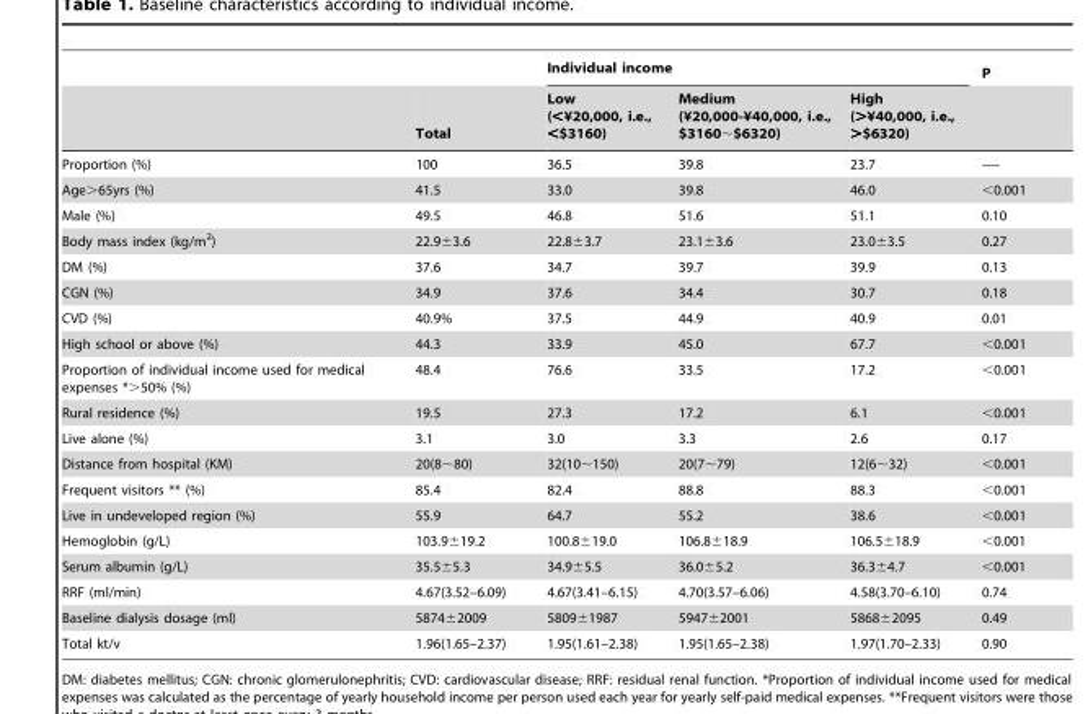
<table><thead><tr><td rowspan="2"></td><td rowspan="2">Total</td><td colspan="3">Individual income</td><td rowspan="2">P</td></tr><tr><td>Low (&lt;¥20,000, i.e., &lt;$3160)</td><td>Medium (¥20,000-¥40,000, i.e., $3160∼$6320)</td><td>High (&gt;¥40,000, i.e., &gt;$6320)</td></tr></thead><tbody><tr><td>Proportion (%)</td><td>100</td><td>36.5</td><td>39.8</td><td>23.7</td><td>----</td></tr><tr><td>Age&gt;65yrs (%)</td><td>41.5</td><td>33.0</td><td>39.8</td><td>46.0</td><td>&lt;0.001</td></tr><tr><td>Male (%)</td><td>49.5</td><td>46.8</td><td>51.6</td><td>51.1</td><td>0.10</td></tr><tr><td>Body mass index (kg/m<sup>2</sup>)</td><td>22.9±3.6</td><td>22.8±3.7</td><td>23.1±3.6</td><td>23.0±3.5</td><td>0.27</td></tr><tr><td>DM (%)</td><td>37.6</td><td>34.7</td><td>39.7</td><td>39.9</td><td>0.13</td></tr><tr><td>CGN (%)</td><td>34.9</td><td>37.6</td><td>34.4</td><td>30.7</td><td>0.18</td></tr><tr><td>CVD (%)</td><td>40.9%</td><td>37.5</td><td>44.9</td><td>40.9</td><td>0.01</td></tr><tr><td>High school or above (%)</td><td>44.3</td><td>33.9</td><td>45.0</td><td>67.7</td><td>&lt;0.001</td></tr><tr><td>Proportion of individual income used for medical expenses *&gt;50% (%)</td><td>48.4</td><td>76.6</td><td>33.5</td><td>17.2</td><td>&lt;0.001</td></tr><tr><td>Rural residence (%)</td><td>19.5</td><td>27.3</td><td>17.2</td><td>6.1</td><td>&lt;0.001</td></tr><tr><td>Live alone (%)</td><td>3.1</td><td>3.0</td><td>3.3</td><td>2.6</td><td>0.17</td></tr><tr><td>Distance from hospital (KM)</td><td>20(8∼80)</td><td>32(10∼150)</td><td>20(7∼79)</td><td>12(6∼32)</td><td>&lt;0.001</td></tr><tr><td>Frequent visitors ** (%)</td><td>85.4</td><td>82.4</td><td>88.8</td><td>88.3</td><td>&lt;0.001</td></tr><tr><td>Live in undeveloped region (%)</td><td>55.9</td><td>64.7</td><td>55.2</td><td>38.6</td><td>&lt;0.001</td></tr><tr><td>Hemoglobin (g/L)</td><td>103.9±19.2</td><td>100.8±19.0</td><td>106.8±18.9</td><td>106.5±18.9</td><td>&lt;0.001</td></tr><tr><td>Serum albumin (g/L)</td><td>35.5±5.3</td><td>34.9±5.5</td><td>36.0±5.2</td><td>36.3±4.7</td><td>&lt;0.001</td></tr><tr><td>RRF (ml/min)</td><td>4.67(3.52–6.09)</td><td>4.67(3.41–6.15)</td><td>4.70(3.57–6.06)</td><td>4.58(3.70–6.10)</td><td>0.74</td></tr><tr><td>Baseline dialysis dosage (ml)</td><td>5874±2009</td><td>5809±1987</td><td>5947±2001</td><td>5868±2095</td><td>0.49</td></tr><tr><td>Total kt/v</td><td>1.96(1.65–2.37)</td><td>1.95(1.61–2.38)</td><td>1.95(1.65–2.38)</td><td>1.97(1.70–2.33)</td><td>0.90</td></tr></tbody></table>